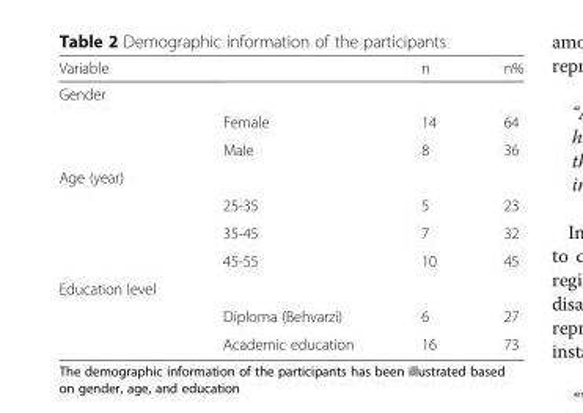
<table><thead><tr><td>Variable</td><td></td><td>n</td><td>n%</td></tr></thead><tbody><tr><td colspan="4">Gender</td></tr><tr><td></td><td>Female</td><td>14</td><td>64</td></tr><tr><td></td><td>Male</td><td>8</td><td>36</td></tr><tr><td colspan="4">Age (year)</td></tr><tr><td></td><td>25-35</td><td>5</td><td>23</td></tr><tr><td></td><td>35-45</td><td>7</td><td>32</td></tr><tr><td></td><td>45-55</td><td>10</td><td>45</td></tr><tr><td colspan="4">Education level</td></tr><tr><td></td><td>Diploma (Behvarzi)</td><td>6</td><td>27</td></tr><tr><td></td><td>Academic education</td><td>16</td><td>73</td></tr></tbody></table>